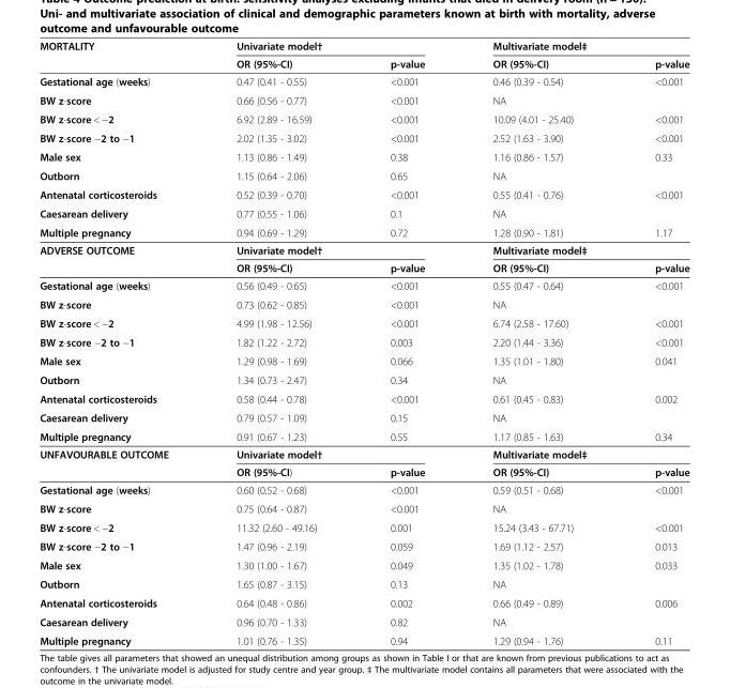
<table><thead><tr><td rowspan="2">MORTALITY</td><td rowspan="2">Univariate model† OR (95%-CI)</td><td rowspan="2">p-value</td><td rowspan="2">Multivariate model‡ OR (95%-CI)</td><td rowspan="2">p-value</td></tr><tr></tr></thead><tbody><tr><td>Gestational age (weeks)</td><td>0.47 (0.41 - 0.55)</td><td>&lt;0.001</td><td>0.46 (0.39 - 0.54)</td><td>&lt;0.001</td></tr><tr><td>BW z-score</td><td>0.66 (0.56 - 0.77)</td><td>&lt;0.001</td><td>NA</td><td></td></tr><tr><td>BW z-score &lt; −2</td><td>6.92 (2.89 - 16.59)</td><td>&lt;0.001</td><td>10.09 (4.01 - 25.40)</td><td>&lt;0.001</td></tr><tr><td>BW z-score −2 to −1</td><td>2.02 (1.35 - 3.02)</td><td>&lt;0.001</td><td>2.52 (1.63 - 3.90)</td><td>&lt;0.001</td></tr><tr><td>Male sex</td><td>1.13 (0.86 - 1.49)</td><td>0.38</td><td>1.16 (0.86 - 1.57)</td><td>0.33</td></tr><tr><td>Outborn</td><td>1.15 (0.64 - 2.06)</td><td>0.65</td><td>NA</td><td></td></tr><tr><td>Antenatal corticosteroids</td><td>0.52 (0.39 - 0.70)</td><td>&lt;0.001</td><td>0.55 (0.41 - 0.76)</td><td>&lt;0.001</td></tr><tr><td>Caesarean delivery</td><td>0.77 (0.55 - 1.06)</td><td>0.1</td><td>NA</td><td></td></tr><tr><td>Multiple pregnancy</td><td>0.94 (0.69 - 1.29)</td><td>0.72</td><td>1.28 (0.90 - 1.81)</td><td>1.17</td></tr><tr><td rowspan="2">ADVERSE OUTCOME</td><td>Univariate model†</td><td></td><td>Multivariate model‡</td><td></td></tr><tr><td>OR (95%-CI)</td><td>p-value</td><td>OR (95%-CI)</td><td>p-value</td></tr><tr><td>Gestational age (weeks)</td><td>0.56 (0.49 - 0.65)</td><td>&lt;0.001</td><td>0.55 (0.47 - 0.64)</td><td>&lt;0.001</td></tr><tr><td>BW z-score</td><td>0.73 (0.62 - 0.85)</td><td>&lt;0.001</td><td>NA</td><td></td></tr><tr><td>BW z-score &lt; −2</td><td>4.99 (1.98 - 12.56)</td><td>&lt;0.001</td><td>6.74 (2.58 - 17.60)</td><td>&lt;0.001</td></tr><tr><td>BW z-score −2 to −1</td><td>1.82 (1.22 - 2.72)</td><td>0.003</td><td>2.20 (1.44 - 3.36)</td><td>&lt;0.001</td></tr><tr><td>Male sex</td><td>1.29 (0.98 - 1.69)</td><td>0.066</td><td>1.35 (1.01 - 1.80)</td><td>0.041</td></tr><tr><td>Outborn</td><td>1.34 (0.73 - 2.47)</td><td>0.34</td><td>NA</td><td></td></tr><tr><td>Antenatal corticosteroids</td><td>0.58 (0.44 - 0.78)</td><td>&lt;0.001</td><td>0.61 (0.45 - 0.83)</td><td>0.002</td></tr><tr><td>Caesarean delivery</td><td>0.79 (0.57 - 1.09)</td><td>0.15</td><td>NA</td><td></td></tr><tr><td>Multiple pregnancy</td><td>0.91 (0.67 - 1.23)</td><td>0.55</td><td>1.17 (0.85 - 1.63)</td><td>0.34</td></tr><tr><td rowspan="2">UNFAVOURABLE OUTCOME</td><td>Univariate model†</td><td></td><td>Multivariate model‡</td><td></td></tr><tr><td>OR (95%-CI)</td><td>p-value</td><td>OR (95%-CI)</td><td>p-value</td></tr><tr><td>Gestational age (weeks)</td><td>0.60 (0.52 - 0.68)</td><td>&lt;0.001</td><td>0.59 (0.51 - 0.68)</td><td>&lt;0.001</td></tr><tr><td>BW z-score</td><td>0.75 (0.64 - 0.87)</td><td>&lt;0.001</td><td>NA</td><td></td></tr><tr><td>BW z-score &lt; −2</td><td>11.32 (2.60 - 49.16)</td><td>0.001</td><td>15.24 (3.43 - 67.71)</td><td>&lt;0.001</td></tr><tr><td>BW z-score −2 to −1</td><td>1.47 (0.96 - 2.19)</td><td>0.059</td><td>1.69 (1.12 - 2.57)</td><td>0.013</td></tr><tr><td>Male sex</td><td>1.30 (1.00 - 1.67)</td><td>0.049</td><td>1.35 (1.02 - 1.78)</td><td>0.033</td></tr><tr><td>Outborn</td><td>1.65 (0.87 - 3.15)</td><td>0.13</td><td>NA</td><td></td></tr><tr><td>Antenatal corticosteroids</td><td>0.64 (0.48 - 0.86)</td><td>0.002</td><td>0.66 (0.49 - 0.89)</td><td>0.006</td></tr><tr><td>Caesarean delivery</td><td>0.96 (0.70 - 1.33)</td><td>0.82</td><td>NA</td><td></td></tr><tr><td>Multiple pregnancy</td><td>1.01 (0.76 - 1.35)</td><td>0.94</td><td>1.29 (0.94 - 1.76)</td><td>0.11</td></tr></tbody></table>